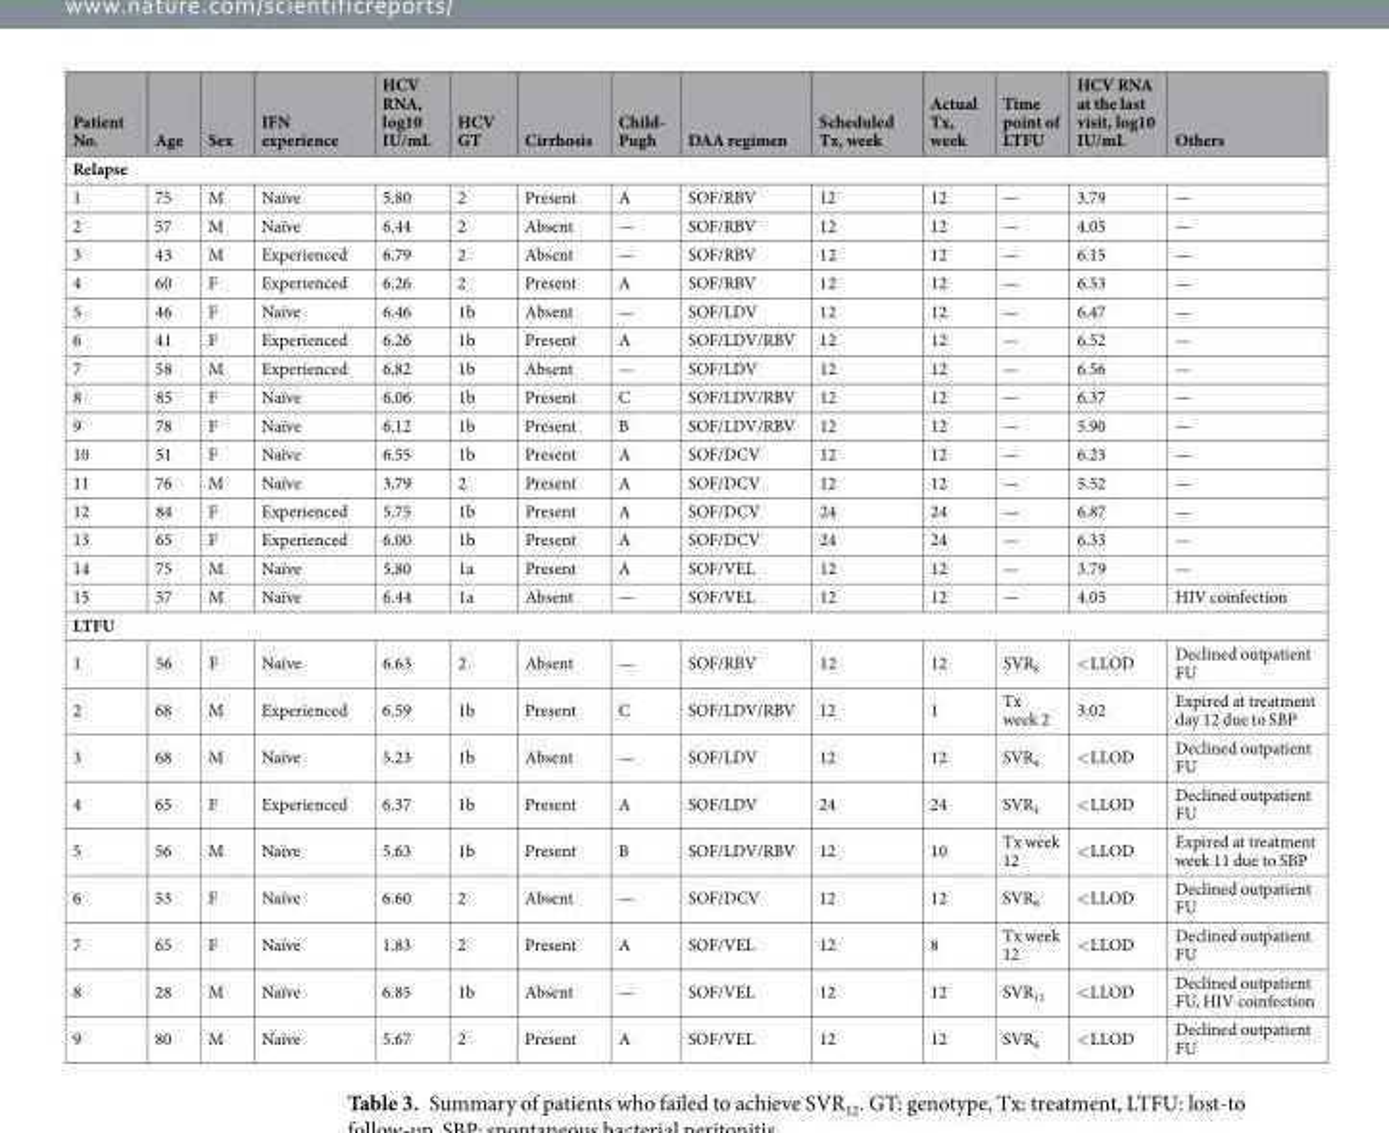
<table><thead><tr><td>Patient No.</td><td>Age</td><td>Sex</td><td>IFN experience</td><td>HCV RNA, log10 IU/mL</td><td>HCV GT</td><td>Cirrhosis</td><td>Child- Pugh</td><td>DAA regimen</td><td>Scheduled Tx, week</td><td>Actual Tx, week</td><td>Time point of LTFU</td><td>HCV RNA at the last visit, log10 IU/mL</td><td>Others</td></tr></thead><tbody><tr><td colspan="14">Relapse</td></tr><tr><td>1</td><td>75</td><td>M</td><td>Naïve</td><td>5.80</td><td>2</td><td>Present</td><td>A</td><td>SOF/RBV</td><td>12</td><td>12</td><td>—</td><td>3.79</td><td>—</td></tr><tr><td>2</td><td>57</td><td>M</td><td>Naïve</td><td>6.44</td><td>2</td><td>Absent</td><td>—</td><td>SOF/RBV</td><td>12</td><td>12</td><td>—</td><td>4.05</td><td>—</td></tr><tr><td>3</td><td>43</td><td>M</td><td>Experienced</td><td>6.79</td><td>2</td><td>Absent</td><td>—</td><td>SOF/RBV</td><td>12</td><td>12</td><td>—</td><td>6.15</td><td>—</td></tr><tr><td>4</td><td>60</td><td>F</td><td>Experienced</td><td>6.26</td><td>2</td><td>Present</td><td>A</td><td>SOF/RBV</td><td>12</td><td>12</td><td>—</td><td>6.53</td><td>—</td></tr><tr><td>5</td><td>46</td><td>F</td><td>Naïve</td><td>6.46</td><td>1b</td><td>Absent</td><td>—</td><td>SOF/LDV</td><td>12</td><td>12</td><td>—</td><td>6.47</td><td>—</td></tr><tr><td>6</td><td>41</td><td>F</td><td>Experienced</td><td>6.26</td><td>1b</td><td>Present</td><td>A</td><td>SOF/LDV/RBV</td><td>12</td><td>12</td><td>—</td><td>6.52</td><td>—</td></tr><tr><td>7</td><td>58</td><td>M</td><td>Experienced</td><td>6.82</td><td>1b</td><td>Absent</td><td>—</td><td>SOF/LDV</td><td>12</td><td>12</td><td>—</td><td>6.56</td><td>—</td></tr><tr><td>8</td><td>85</td><td>F</td><td>Naïve</td><td>6.06</td><td>1b</td><td>Present</td><td>C</td><td>SOF/LDV/RBV</td><td>12</td><td>12</td><td>—</td><td>6.37</td><td>—</td></tr><tr><td>9</td><td>78</td><td>F</td><td>Naïve</td><td>6.12</td><td>1b</td><td>Present</td><td>B</td><td>SOF/LDV/RBV</td><td>12</td><td>12</td><td>—</td><td>5.90</td><td>—</td></tr><tr><td>10</td><td>51</td><td>F</td><td>Naive</td><td>6.55</td><td>1b</td><td>Present</td><td>A</td><td>SOF/DCV</td><td>12</td><td>12</td><td>—</td><td>6.23</td><td>—</td></tr><tr><td>11</td><td>76</td><td>M</td><td>Naïve</td><td>3.79</td><td>2</td><td>Present</td><td>A</td><td>SOF/DCV</td><td>12</td><td>12</td><td>—</td><td>5.52</td><td>—</td></tr><tr><td>12</td><td>84</td><td>F</td><td>Experienced</td><td>5.75</td><td>1b</td><td>Present</td><td>A</td><td>SOF/DCV</td><td>24</td><td>24</td><td>—</td><td>6.87</td><td>—</td></tr><tr><td>13</td><td>65</td><td>F</td><td>Experienced</td><td>6.00</td><td>1b</td><td>Present</td><td>A</td><td>SOF/DCV</td><td>24</td><td>24</td><td>—</td><td>6.33</td><td>—</td></tr><tr><td>14</td><td>75</td><td>M</td><td>Naïve</td><td>5.80</td><td>1a</td><td>Present</td><td>A</td><td>SOF/VEL</td><td>12</td><td>12</td><td>—</td><td>3.79</td><td>—</td></tr><tr><td>15</td><td>57</td><td>M</td><td>Naïve</td><td>6.44</td><td>1a</td><td>Absent</td><td>—</td><td>SOF/VEL</td><td>12</td><td>12</td><td>—</td><td>4.05</td><td>HIV coinfection</td></tr><tr><td colspan="14">LTFU</td></tr><tr><td>1</td><td>56</td><td>F</td><td>Naïve</td><td>6.63</td><td>2</td><td>Absent</td><td>—</td><td>SOF/RBV</td><td>12</td><td>12</td><td>SVR<sub>8</sub></td><td>&lt;LLOD</td><td>Declined outpatient FU</td></tr><tr><td>2</td><td>68</td><td>M</td><td>Experienced</td><td>6.59</td><td>1b</td><td>Present</td><td>C</td><td>SOF/LDV/RBV</td><td>12</td><td>1</td><td>Tx week 2</td><td>3.02</td><td>Expired at treatment day 12 due to SBP</td></tr><tr><td>3</td><td>68</td><td>M</td><td>Naïve</td><td>5.23</td><td>1b</td><td>Absent</td><td>—</td><td>SOF/LDV</td><td>12</td><td>12</td><td>SVR<sub>4</sub></td><td>&lt;LLOD</td><td>Declined outpatient FU</td></tr><tr><td>4</td><td>65</td><td>F</td><td>Experienced</td><td>6.37</td><td>1b</td><td>Present</td><td>A</td><td>SOF/LDV</td><td>24</td><td>24</td><td>SVR<sub>4</sub></td><td>&lt;LLOD</td><td>Declined outpatient FU</td></tr><tr><td>5</td><td>56</td><td>M</td><td>Naïve</td><td>5.63</td><td>1b</td><td>Present</td><td>B</td><td>SOF/LDV/RBV</td><td>12</td><td>10</td><td>Tx week 12</td><td>&lt;LLOD</td><td>Expired at treatment week 11 due to SBP</td></tr><tr><td>6</td><td>53</td><td>F</td><td>Naïve</td><td>6.60</td><td>2</td><td>Absent</td><td>—</td><td>SOF/DCV</td><td>12</td><td>12</td><td>SVR<sub>8</sub></td><td>&lt;LLOD</td><td>Declined outpatient FU</td></tr><tr><td>7</td><td>65</td><td>F</td><td>Naïve</td><td>1.83</td><td>2</td><td>Present</td><td>A</td><td>SOF/VEL</td><td>12</td><td>8</td><td>Tx week 12</td><td>&lt;LLOD</td><td>Declined outpatient FU</td></tr><tr><td>8</td><td>28</td><td>M</td><td>Naïve</td><td>6.85</td><td>1b</td><td>Absent</td><td>—</td><td>SOF/VEL</td><td>12</td><td>12</td><td>SVR<sub>12</sub></td><td>&lt;LLOD</td><td>Declined outpatient FU, HIV coinfection</td></tr><tr><td>9</td><td>80</td><td>M</td><td>Naïve</td><td>5.67</td><td>2</td><td>Present</td><td>A</td><td>SOF/VEL</td><td>12</td><td>12</td><td>SVR<sub>4</sub></td><td>&lt;LLOD</td><td>Declined outpatient FU</td></tr></tbody></table>